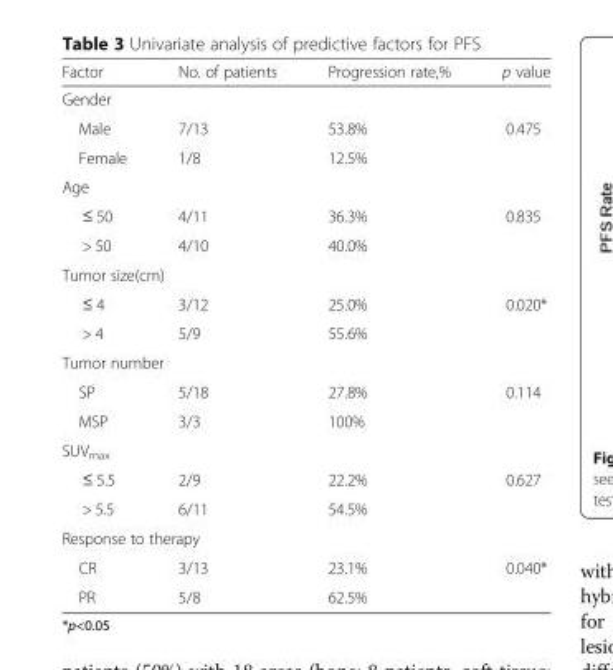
<table><thead><tr><td>Factor</td><td>No. of patients</td><td>Progression rate,%</td><td>p value</td></tr></thead><tbody><tr><td colspan="4">Gender</td></tr><tr><td>Male</td><td>7/13</td><td>53.8%</td><td>0.475</td></tr><tr><td>Female</td><td>1/8</td><td>12.5%</td><td></td></tr><tr><td colspan="4">Age</td></tr><tr><td>≤ 50</td><td>4/11</td><td>36.3%</td><td>0.835</td></tr><tr><td>&gt; 50</td><td>4/10</td><td>40.0%</td><td></td></tr><tr><td colspan="4">Tumor size(cm)</td></tr><tr><td>≤ 4</td><td>3/12</td><td>25.0%</td><td>0.020*</td></tr><tr><td>&gt; 4</td><td>5/9</td><td>55.6%</td><td></td></tr><tr><td colspan="4">Tumor number</td></tr><tr><td>SP</td><td>5/18</td><td>27.8%</td><td>0.114</td></tr><tr><td>MSP</td><td>3/3</td><td>100%</td><td></td></tr><tr><td colspan="4">SUV<sub>max</sub></td></tr><tr><td>≤ 5.5</td><td>2/9</td><td>22.2%</td><td>0.627</td></tr><tr><td>&gt; 5.5</td><td>6/11</td><td>54.5%</td><td></td></tr><tr><td colspan="4">Response to therapy</td></tr><tr><td>CR</td><td>3/13</td><td>23.1%</td><td>0.040*</td></tr><tr><td>PR</td><td>5/8</td><td>62.5%</td><td></td></tr></tbody></table>